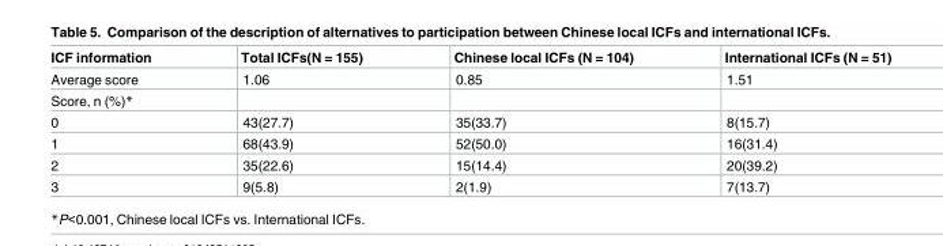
<table><thead><tr><td>ICF information</td><td>Total ICFs(N = 155)</td><td>Chinese local ICFs (N = 104)</td><td>International ICFs (N = 51)</td></tr></thead><tbody><tr><td>Average score</td><td>1.06</td><td>0.85</td><td>1.51</td></tr><tr><td colspan="4">Score, n (%)*</td></tr><tr><td>0</td><td>43(27.7)</td><td>35(33.7)</td><td>8(15.7)</td></tr><tr><td>1</td><td>68(43.9)</td><td>52(50.0)</td><td>16(31.4)</td></tr><tr><td>2</td><td>35(22.6)</td><td>15(14.4)</td><td>20(39.2)</td></tr><tr><td>3</td><td>9(5.8)</td><td>2(1.9)</td><td>7(13.7)</td></tr></tbody></table>